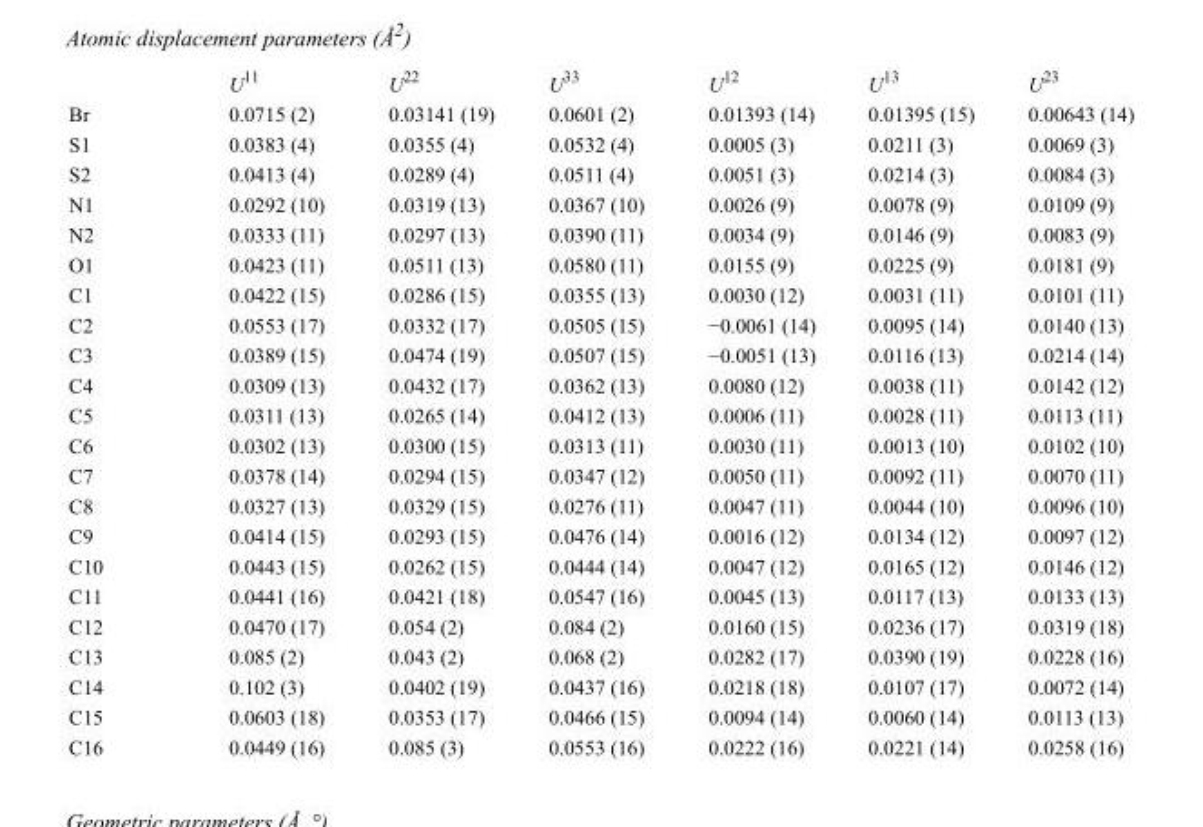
<table><thead><tr><td></td><td>U<sup>11</sup></td><td>U<sup>22</sup></td><td>U<sup>33</sup></td><td>U<sup>12</sup></td><td>U<sup>13</sup></td><td>U<sup>23</sup></td></tr></thead><tbody><tr><td>Br</td><td>0.0715 (2)</td><td>0.03141 (19)</td><td>0.0601 (2)</td><td>0.01393 (14)</td><td>0.01395 (15)</td><td>0.00643 (14)</td></tr><tr><td>S1</td><td>0.0383 (4)</td><td>0.0355 (4)</td><td>0.0532 (4)</td><td>0.0005 (3)</td><td>0.0211 (3)</td><td>0.0069 (3)</td></tr><tr><td>S2</td><td>0.0413 (4)</td><td>0.0289 (4)</td><td>0.0511 (4)</td><td>0.0051 (3)</td><td>0.0214 (3)</td><td>0.0084 (3)</td></tr><tr><td>N1</td><td>0.0292 (10)</td><td>0.0319 (13)</td><td>0.0367 (10)</td><td>0.0026 (9)</td><td>0.0078 (9)</td><td>0.0109 (9)</td></tr><tr><td>N2</td><td>0.0333 (11)</td><td>0.0297 (13)</td><td>0.0390 (11)</td><td>0.0034 (9)</td><td>0.0146 (9)</td><td>0.0083 (9)</td></tr><tr><td>O1</td><td>0.0423 (11)</td><td>0.0511 (13)</td><td>0.0580 (11)</td><td>0.0155 (9)</td><td>0.0225 (9)</td><td>0.0181 (9)</td></tr><tr><td>C1</td><td>0.0422 (15)</td><td>0.0286 (15)</td><td>0.0355 (13)</td><td>0.0030 (12)</td><td>0.0031 (11)</td><td>0.0101 (11)</td></tr><tr><td>C2</td><td>0.0553 (17)</td><td>0.0332 (17)</td><td>0.0505 (15)</td><td>−0.0061 (14)</td><td>0.0095 (14)</td><td>0.0140 (13)</td></tr><tr><td>C3</td><td>0.0389 (15)</td><td>0.0474 (19)</td><td>0.0507 (15)</td><td>−0.0051 (13)</td><td>0.0116 (13)</td><td>0.0214 (14)</td></tr><tr><td>C4</td><td>0.0309 (13)</td><td>0.0432 (17)</td><td>0.0362 (13)</td><td>0.0080 (12)</td><td>0.0038 (11)</td><td>0.0142 (12)</td></tr><tr><td>C5</td><td>0.0311 (13)</td><td>0.0265 (14)</td><td>0.0412 (13)</td><td>0.0006 (11)</td><td>0.0028 (11)</td><td>0.0113 (11)</td></tr><tr><td>C6</td><td>0.0302 (13)</td><td>0.0300 (15)</td><td>0.0313 (11)</td><td>0.0030 (11)</td><td>0.0013 (10)</td><td>0.0102 (10)</td></tr><tr><td>C7</td><td>0.0378 (14)</td><td>0.0294 (15)</td><td>0.0347 (12)</td><td>0.0050 (11)</td><td>0.0092 (11)</td><td>0.0070 (11)</td></tr><tr><td>C8</td><td>0.0327 (13)</td><td>0.0329 (15)</td><td>0.0276 (11)</td><td>0.0047 (11)</td><td>0.0044 (10)</td><td>0.0096 (10)</td></tr><tr><td>C9</td><td>0.0414 (15)</td><td>0.0293 (15)</td><td>0.0476 (14)</td><td>0.0016 (12)</td><td>0.0134 (12)</td><td>0.0097 (12)</td></tr><tr><td>C10</td><td>0.0443 (15)</td><td>0.0262 (15)</td><td>0.0444 (14)</td><td>0.0047 (12)</td><td>0.0165 (12)</td><td>0.0146 (12)</td></tr><tr><td>C11</td><td>0.0441 (16)</td><td>0.0421 (18)</td><td>0.0547 (16)</td><td>0.0045 (13)</td><td>0.0117 (13)</td><td>0.0133 (13)</td></tr><tr><td>C12</td><td>0.0470 (17)</td><td>0.054 (2)</td><td>0.084 (2)</td><td>0.0160 (15)</td><td>0.0236 (17)</td><td>0.0319 (18)</td></tr><tr><td>C13</td><td>0.085 (2)</td><td>0.043 (2)</td><td>0.068 (2)</td><td>0.0282 (17)</td><td>0.0390 (19)</td><td>0.0228 (16)</td></tr><tr><td>C14</td><td>0.102 (3)</td><td>0.0402 (19)</td><td>0.0437 (16)</td><td>0.0218 (18)</td><td>0.0107 (17)</td><td>0.0072 (14)</td></tr><tr><td>C15</td><td>0.0603 (18)</td><td>0.0353 (17)</td><td>0.0466 (15)</td><td>0.0094 (14)</td><td>0.0060 (14)</td><td>0.0113 (13)</td></tr><tr><td>C16</td><td>0.0449 (16)</td><td>0.085 (3)</td><td>0.0553 (16)</td><td>0.0222 (16)</td><td>0.0221 (14)</td><td>0.0258 (16)</td></tr></tbody></table>